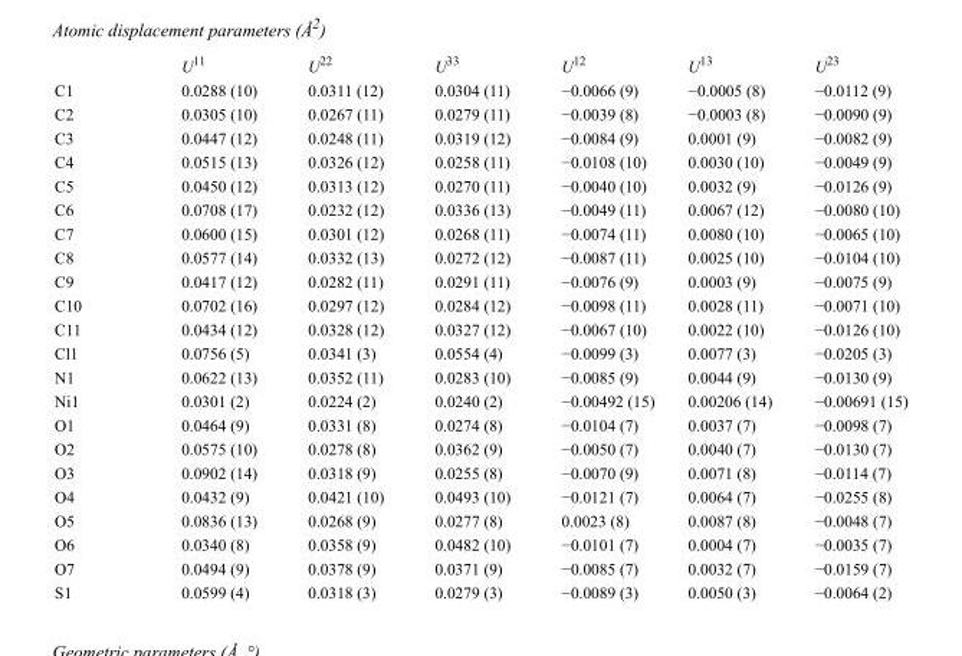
<table><thead><tr><td></td><td>U<sup>11</sup></td><td>U<sup>22</sup></td><td>U<sup>33</sup></td><td>U<sup>12</sup></td><td>U<sup>13</sup></td><td>U<sup>23</sup></td></tr></thead><tbody><tr><td>C1</td><td>0.0288 (10)</td><td>0.0311 (12)</td><td>0.0304 (11)</td><td>−0.0066 (9)</td><td>−0.0005 (8)</td><td>−0.0112 (9)</td></tr><tr><td>C2</td><td>0.0305 (10)</td><td>0.0267 (11)</td><td>0.0279 (11)</td><td>−0.0039 (8)</td><td>−0.0003 (8)</td><td>−0.0090 (9)</td></tr><tr><td>C3</td><td>0.0447 (12)</td><td>0.0248 (11)</td><td>0.0319 (12)</td><td>−0.0084 (9)</td><td>0.0001 (9)</td><td>−0.0082 (9)</td></tr><tr><td>C4</td><td>0.0515 (13)</td><td>0.0326 (12)</td><td>0.0258 (11)</td><td>−0.0108 (10)</td><td>0.0030 (10)</td><td>−0.0049 (9)</td></tr><tr><td>C5</td><td>0.0450 (12)</td><td>0.0313 (12)</td><td>0.0270 (11)</td><td>−0.0040 (10)</td><td>0.0032 (9)</td><td>−0.0126 (9)</td></tr><tr><td>C6</td><td>0.0708 (17)</td><td>0.0232 (12)</td><td>0.0336 (13)</td><td>−0.0049 (11)</td><td>0.0067 (12)</td><td>−0.0080 (10)</td></tr><tr><td>C7</td><td>0.0600 (15)</td><td>0.0301 (12)</td><td>0.0268 (11)</td><td>−0.0074 (11)</td><td>0.0080 (10)</td><td>−0.0065 (10)</td></tr><tr><td>C8</td><td>0.0577 (14)</td><td>0.0332 (13)</td><td>0.0272 (12)</td><td>−0.0087 (11)</td><td>0.0025 (10)</td><td>−0.0104 (10)</td></tr><tr><td>C9</td><td>0.0417 (12)</td><td>0.0282 (11)</td><td>0.0291 (11)</td><td>−0.0076 (9)</td><td>0.0003 (9)</td><td>−0.0075 (9)</td></tr><tr><td>C10</td><td>0.0702 (16)</td><td>0.0297 (12)</td><td>0.0284 (12)</td><td>−0.0098 (11)</td><td>0.0028 (11)</td><td>−0.0071 (10)</td></tr><tr><td>C11</td><td>0.0434 (12)</td><td>0.0328 (12)</td><td>0.0327 (12)</td><td>−0.0067 (10)</td><td>0.0022 (10)</td><td>−0.0126 (10)</td></tr><tr><td>Cl1</td><td>0.0756 (5)</td><td>0.0341 (3)</td><td>0.0554 (4)</td><td>−0.0099 (3)</td><td>0.0077 (3)</td><td>−0.0205 (3)</td></tr><tr><td>N1</td><td>0.0622 (13)</td><td>0.0352 (11)</td><td>0.0283 (10)</td><td>−0.0085 (9)</td><td>0.0044 (9)</td><td>−0.0130 (9)</td></tr><tr><td>Ni1</td><td>0.0301 (2)</td><td>0.0224 (2)</td><td>0.0240 (2)</td><td>−0.00492 (15)</td><td>0.00206 (14)</td><td>−0.00691 (15)</td></tr><tr><td>O1</td><td>0.0464 (9)</td><td>0.0331 (8)</td><td>0.0274 (8)</td><td>−0.0104 (7)</td><td>0.0037 (7)</td><td>−0.0098 (7)</td></tr><tr><td>O2</td><td>0.0575 (10)</td><td>0.0278 (8)</td><td>0.0362 (9)</td><td>−0.0050 (7)</td><td>0.0040 (7)</td><td>−0.0130 (7)</td></tr><tr><td>O3</td><td>0.0902 (14)</td><td>0.0318 (9)</td><td>0.0255 (8)</td><td>−0.0070 (9)</td><td>0.0071 (8)</td><td>−0.0114 (7)</td></tr><tr><td>O4</td><td>0.0432 (9)</td><td>0.0421 (10)</td><td>0.0493 (10)</td><td>−0.0121 (7)</td><td>0.0064 (7)</td><td>−0.0255 (8)</td></tr><tr><td>O5</td><td>0.0836 (13)</td><td>0.0268 (9)</td><td>0.0277 (8)</td><td>0.0023 (8)</td><td>0.0087 (8)</td><td>−0.0048 (7)</td></tr><tr><td>O6</td><td>0.0340 (8)</td><td>0.0358 (9)</td><td>0.0482 (10)</td><td>−0.0101 (7)</td><td>0.0004 (7)</td><td>−0.0035 (7)</td></tr><tr><td>O7</td><td>0.0494 (9)</td><td>0.0378 (9)</td><td>0.0371 (9)</td><td>−0.0085 (7)</td><td>0.0032 (7)</td><td>−0.0159 (7)</td></tr><tr><td>S1</td><td>0.0599 (4)</td><td>0.0318 (3)</td><td>0.0279 (3)</td><td>−0.0089 (3)</td><td>0.0050 (3)</td><td>−0.0064 (2)</td></tr></tbody></table>